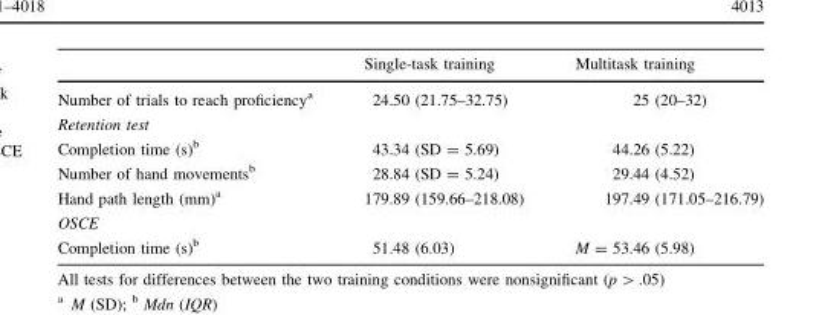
<table><thead><tr><td></td><td>Single-task training</td><td>Multitask training</td></tr></thead><tbody><tr><td>Number of trials to reach proficiency<sup>a</sup></td><td>24.50 (21.75–32.75)</td><td>25 (20–32)</td></tr><tr><td colspan="3">Retention test</td></tr><tr><td>Completion time (s)<sup>b</sup></td><td>43.34 (SD = 5.69)</td><td>44.26 (5.22)</td></tr><tr><td>Number of hand movements<sup>b</sup></td><td>28.84 (SD = 5.24)</td><td>29.44 (4.52)</td></tr><tr><td>Hand path length (mm)<sup>a</sup></td><td>179.89 (159.66–218.08)</td><td>197.49 (171.05–216.79)</td></tr><tr><td colspan="3">OSCE</td></tr><tr><td>Completion time (s)<sup>b</sup></td><td>51.48 (6.03)</td><td>M = 53.46 (5.98)</td></tr></tbody></table>